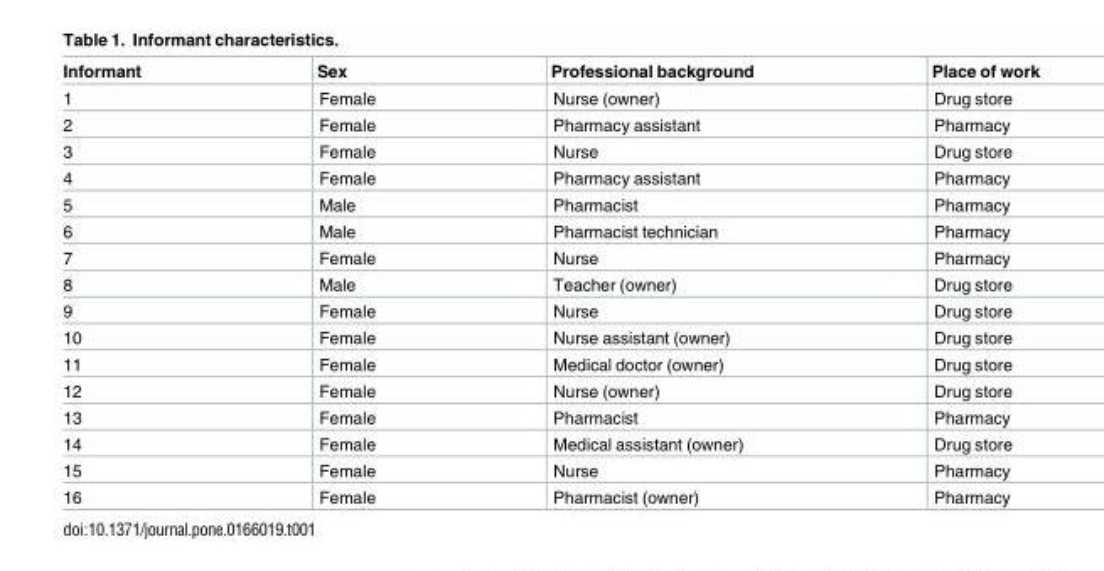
<table><thead><tr><td>Informant</td><td>Sex</td><td>Professional background</td><td>Place of work</td></tr></thead><tbody><tr><td>1</td><td>Female</td><td>Nurse (owner)</td><td>Drug store</td></tr><tr><td>2</td><td>Female</td><td>Pharmacy assistant</td><td>Pharmacy</td></tr><tr><td>3</td><td>Female</td><td>Nurse</td><td>Drug store</td></tr><tr><td>4</td><td>Female</td><td>Pharmacy assistant</td><td>Pharmacy</td></tr><tr><td>5</td><td>Male</td><td>Pharmacist</td><td>Pharmacy</td></tr><tr><td>6</td><td>Male</td><td>Pharmacist technician</td><td>Pharmacy</td></tr><tr><td>7</td><td>Female</td><td>Nurse</td><td>Pharmacy</td></tr><tr><td>8</td><td>Male</td><td>Teacher (owner)</td><td>Drug store</td></tr><tr><td>9</td><td>Female</td><td>Nurse</td><td>Drug store</td></tr><tr><td>10</td><td>Female</td><td>Nurse assistant (owner)</td><td>Drug store</td></tr><tr><td>11</td><td>Female</td><td>Medical doctor (owner)</td><td>Drug store</td></tr><tr><td>12</td><td>Female</td><td>Nurse (owner)</td><td>Drug store</td></tr><tr><td>13</td><td>Female</td><td>Pharmacist</td><td>Pharmacy</td></tr><tr><td>14</td><td>Female</td><td>Medical assistant (owner)</td><td>Drug store</td></tr><tr><td>15</td><td>Female</td><td>Nurse</td><td>Pharmacy</td></tr><tr><td>16</td><td>Female</td><td>Pharmacist (owner)</td><td>Pharmacy</td></tr></tbody></table>